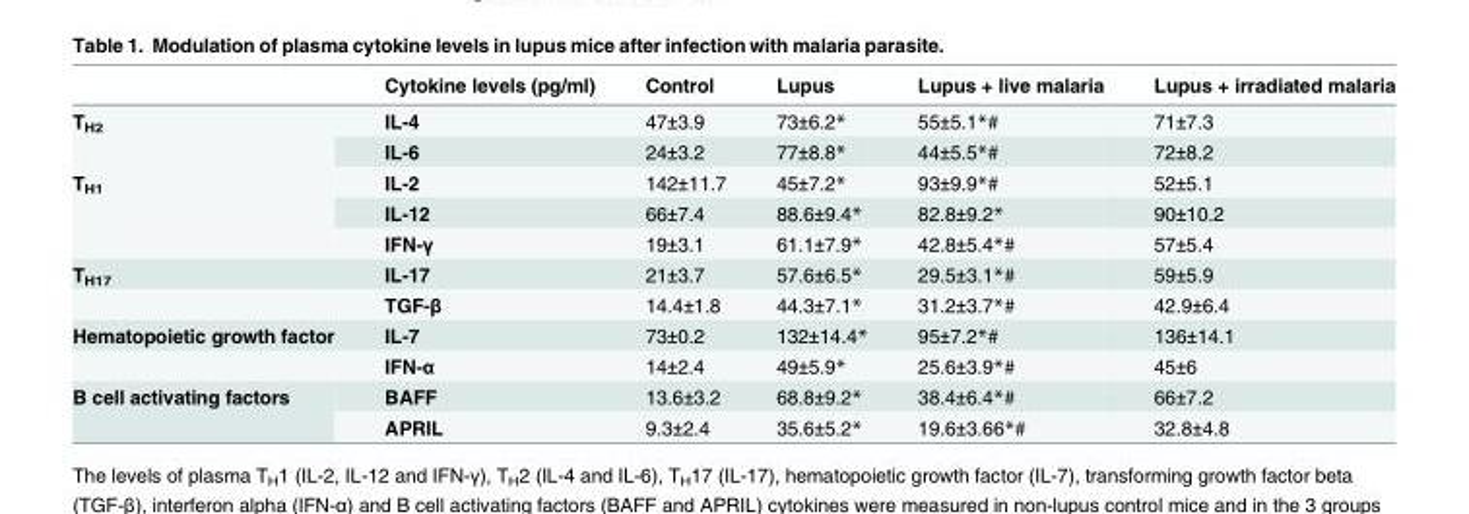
<table><thead><tr><td></td><td>Cytokine levels (pg/ml)</td><td>Control</td><td>Lupus</td><td>Lupus + live malaria</td><td>Lupus + irradiated malaria</td></tr></thead><tbody><tr><td rowspan="2">T<sub>H2</sub></td><td>IL-4</td><td>47±3.9</td><td>73±6.2*</td><td>55±5.1*#</td><td>71±7.3</td></tr><tr><td>IL-6</td><td>24±3.2</td><td>77±8.8*</td><td>44±5.5*#</td><td>72±8.2</td></tr><tr><td rowspan="3">T<sub>H1</sub></td><td>IL-2</td><td>142±11.7</td><td>45±7.2*</td><td>93±9.9*#</td><td>52±5.1</td></tr><tr><td>IL-12</td><td>66±7.4</td><td>88.6±9.4*</td><td>82.8±9.2*</td><td>90±10.2</td></tr><tr><td>IFN-γ</td><td>19±3.1</td><td>61.1±7.9*</td><td>42.8±5.4*#</td><td>57±5.4</td></tr><tr><td rowspan="2">T<sub>H17</sub></td><td>IL-17</td><td>21±3.7</td><td>57.6±6.5*</td><td>29.5±3.1*#</td><td>59±5.9</td></tr><tr><td>TGF-β</td><td>14.4±1.8</td><td>44.3±7.1*</td><td>31.2±3.7*#</td><td>42.9±6.4</td></tr><tr><td rowspan="2">Hematopoietic growth factor</td><td>IL-7</td><td>73±0.2</td><td>132±14.4*</td><td>95±7.2*#</td><td>136±14.1</td></tr><tr><td>IFN-α</td><td>14±2.4</td><td>49±5.9*</td><td>25.6±3.9*#</td><td>45±6</td></tr><tr><td rowspan="2">B cell activating factors</td><td>BAFF</td><td>13.6±3.2</td><td>68.8±9.2*</td><td>38.4±6.4*#</td><td>66±7.2</td></tr><tr><td>APRIL</td><td>9.3±2.4</td><td>35.6±5.2*</td><td>19.6±3.66*#</td><td>32.8±4.8</td></tr></tbody></table>